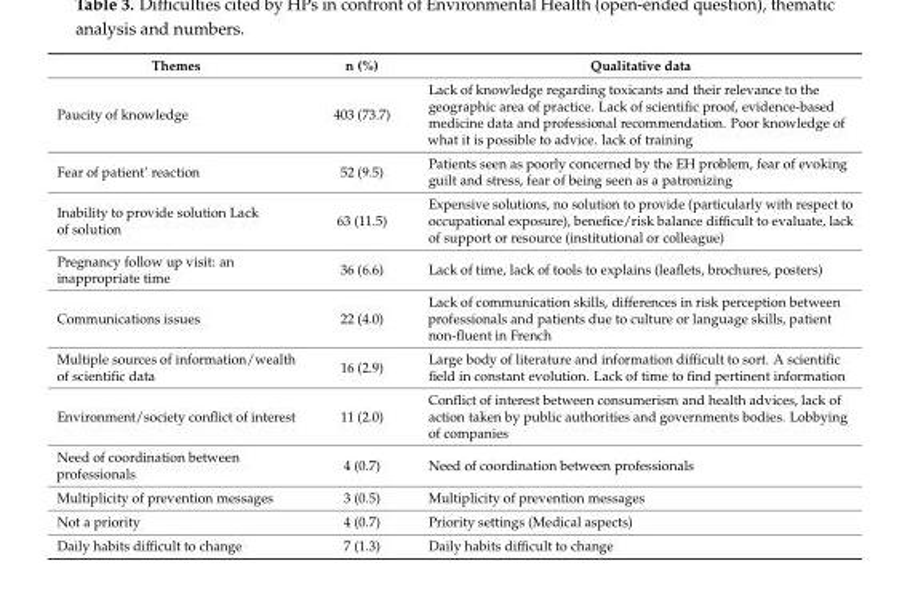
<table><thead><tr><td>Themes</td><td>n (%)</td><td>Qualitative data</td></tr></thead><tbody><tr><td>Paucity of knowledge</td><td>403 (73.7)</td><td>Lack of knowledge regarding toxicants and their relevance to the geographic area of practice. Lack of scientific proof, evidence-based medicine data and professional recommendation. Poor knowledge of what it is possible to advice. lack of training</td></tr><tr><td>Fear of patient’ reaction</td><td>52 (9.5)</td><td>Patients seen as poorly concerned by the EH problem, fear of evoking guilt and stress, fear of being seen as a patronizing</td></tr><tr><td>Inability to provide solution Lack of solution</td><td>63 (11.5)</td><td>Expensive solutions, no solution to provide (particularly with respect to occupational exposure), benefice/risk balance difficult to evaluate, lack of support or resource (institutional or colleague)</td></tr><tr><td>Pregnancy follow up visit: an inappropriate time</td><td>36 (6.6)</td><td>Lack of time, lack of tools to explains (leaflets, brochures, posters)</td></tr><tr><td>Communications issues</td><td>22 (4.0)</td><td>Lack of communication skills, differences in risk perception between professionals and patients due to culture or language skills, patient non-fluent in French</td></tr><tr><td>Multiple sources of information/wealth of scientific data</td><td>16 (2.9)</td><td>Large body of literature and information difficult to sort. A scientific field in constant evolution. Lack of time to find pertinent information</td></tr><tr><td>Environment/society conflict of interest</td><td>11 (2.0)</td><td>Conflict of interest between consumerism and health advices, lack of action taken by public authorities and governments bodies. Lobbying of companies</td></tr><tr><td>Need of coordination between professionals</td><td>4 (0.7)</td><td>Need of coordination between professionals</td></tr><tr><td>Multiplicity of prevention messages</td><td>3 (0.5)</td><td>Multiplicity of prevention messages</td></tr><tr><td>Not a priority</td><td>4 (0.7)</td><td>Priority settings (Medical aspects)</td></tr><tr><td>Daily habits difficult to change</td><td>7 (1.3)</td><td>Daily habits difficult to change</td></tr></tbody></table>